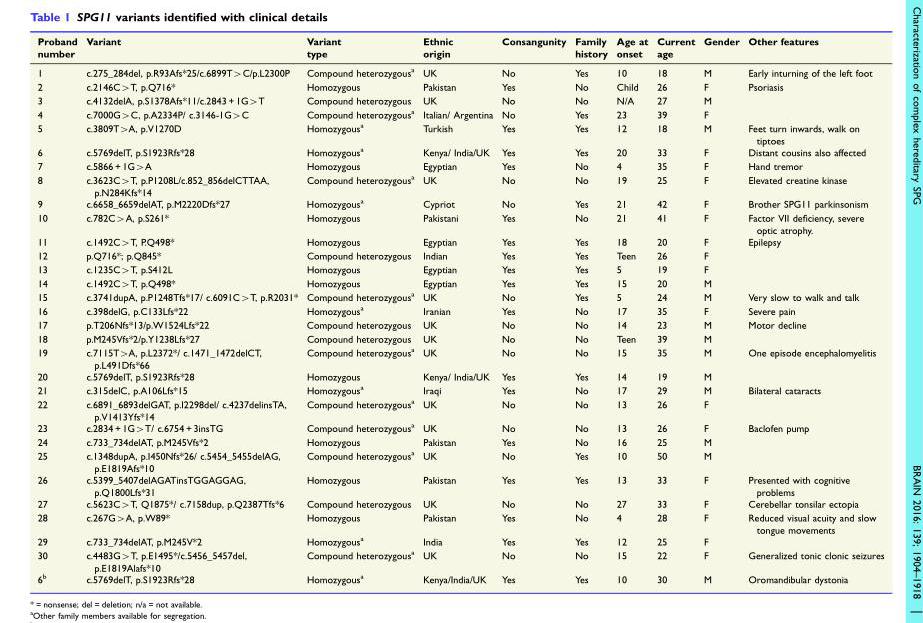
<table><thead><tr><td>Proband number</td><td>Variant</td><td>Variant type</td><td>Ethnic origin</td><td>Consangunity</td><td>Family history</td><td>Age at onset</td><td>Current age</td><td>Gender</td><td>Other features</td></tr></thead><tbody><tr><td>1</td><td>c.275_284del, p.R93Afs*25/c.6899T&gt;C/p.L2300P</td><td>Compound heterozygous<sup>a</sup></td><td>UK</td><td>No</td><td>Yes</td><td>10</td><td>18</td><td>M</td><td>Early inturning of the left foot</td></tr><tr><td>2</td><td>c.2146C&gt;T, p.Q716*</td><td>Homozygous</td><td>Pakistan</td><td>Yes</td><td>No</td><td>Child</td><td>26</td><td>F</td><td>Psoriasis</td></tr><tr><td>3</td><td>c.4132delA, p.S1378Afs*11/c.2843 + 1G&gt;T</td><td>Compound heterozygous</td><td>UK</td><td>No</td><td>No</td><td>N/A</td><td>27</td><td>M</td><td></td></tr><tr><td>4</td><td>c.7000G&gt;C, p.A2334P/ c.3146-1G&gt;C</td><td>Compound heterozygous<sup>a</sup></td><td>Italian/ Argentina</td><td>No</td><td>Yes</td><td>23</td><td>39</td><td>F</td><td></td></tr><tr><td>5</td><td>c.3809T&gt;A, p.V1270D</td><td>Homozygous<sup>a</sup></td><td>Turkish</td><td>Yes</td><td>Yes</td><td>12</td><td>18</td><td>M</td><td>Feet turn inwards, walk on tiptoes</td></tr><tr><td>6</td><td>c.5769delT, p.S1923Rfs*28</td><td>Homozygous<sup>a</sup></td><td>Kenya/ India/UK</td><td>Yes</td><td>Yes</td><td>20</td><td>33</td><td>F</td><td>Distant cousins also affected</td></tr><tr><td>7</td><td>c.5866 + 1G&gt;A</td><td>Homozygous</td><td>Egyptian</td><td>Yes</td><td>No</td><td>4</td><td>35</td><td>F</td><td>Hand tremor</td></tr><tr><td>8</td><td>c.3623C&gt;T, p.P1208L/c.852_856delCTTAA, p.N284Kfs*14</td><td>Compound heterozygous<sup>a</sup></td><td>UK</td><td>No</td><td>No</td><td>19</td><td>25</td><td>F</td><td>Elevated creatine kinase</td></tr><tr><td>9</td><td>c.6658_6659delAT, p.M2220Dfs*27</td><td>Homozygous<sup>a</sup></td><td>Cypriot</td><td>No</td><td>Yes</td><td>21</td><td>42</td><td>F</td><td>Brother SPG11 parkinsonism</td></tr><tr><td>10</td><td>c.782C&gt;A, p.S261*</td><td>Homozygous</td><td>Pakistani</td><td>Yes</td><td>No</td><td>21</td><td>41</td><td>F</td><td>Factor VII deficiency, severe optic atrophy.</td></tr><tr><td>11</td><td>c.1492C&gt;T, P.Q498*</td><td>Homozygous</td><td>Egyptian</td><td>Yes</td><td>Yes</td><td>18</td><td>20</td><td>F</td><td>Epilepsy</td></tr><tr><td>12</td><td>p.Q716*; p.Q845*</td><td>Compound heterozygous</td><td>Indian</td><td>Yes</td><td>Yes</td><td>Teen</td><td>26</td><td>F</td><td></td></tr><tr><td>13</td><td>c.1235C&gt;T, p.S412L</td><td>Homozygous</td><td>Egyptian</td><td>Yes</td><td>Yes</td><td>5</td><td>19</td><td>F</td><td></td></tr><tr><td>14</td><td>c.1492C&gt;T, p.Q498*</td><td>Homozygous</td><td>Egyptian</td><td>Yes</td><td>Yes</td><td>15</td><td>20</td><td>M</td><td></td></tr><tr><td>15</td><td>c.3741dupA, p.P1248Tfs*17/ c.6091C&gt;T, p.R2031*</td><td>Compound heterozygous<sup>a</sup></td><td>UK</td><td>No</td><td>Yes</td><td>5</td><td>24</td><td>M</td><td>Very slow to walk and talk</td></tr><tr><td>16</td><td>c.398delG, p.C133Lfs*22</td><td>Homozygous<sup>a</sup></td><td>Iranian</td><td>Yes</td><td>No</td><td>17</td><td>35</td><td>F</td><td>Severe pain</td></tr><tr><td>17</td><td>p.T206Nfs*13/p.W1524Lfs*22</td><td>Compound heterozygous</td><td>UK</td><td>No</td><td>No</td><td>14</td><td>23</td><td>M</td><td>Motor decline</td></tr><tr><td>18</td><td>p.M245Vfs*2/p.Y1238Lfs*27</td><td>Compound heterozygous</td><td>UK</td><td>No</td><td>No</td><td>Teen</td><td>39</td><td>M</td><td></td></tr><tr><td>19</td><td>c.7115T&gt;A, p.L2372*/ c.1471_1472delCT, p.L491Dfs*66</td><td>Compound heterozygous<sup>a</sup></td><td>UK</td><td>No</td><td>No</td><td>15</td><td>35</td><td>M</td><td>One episode encephalomyelitis</td></tr><tr><td>20</td><td>c.5769delT, p.S1923Rfs*28</td><td>Homozygous</td><td>Kenya/ India/UK</td><td>Yes</td><td>Yes</td><td>14</td><td>19</td><td>M</td><td></td></tr><tr><td>21</td><td>c.315delC, p.A106Lfs*15</td><td>Homozygous<sup>a</sup></td><td>Iraqi</td><td>Yes</td><td>No</td><td>17</td><td>29</td><td>M</td><td>Bilateral cataracts</td></tr><tr><td>22</td><td>c.6891_6893delGAT, p.I2298del/ c.4237delinsTA, p.V1413Yfs*14</td><td>Compound heterozygous<sup>a</sup></td><td>UK</td><td>No</td><td>No</td><td>13</td><td>26</td><td>F</td><td></td></tr><tr><td>23</td><td>c.2834 + 1G&gt;T/ c.6754 + 3insTG</td><td>Compound heterozygous<sup>a</sup></td><td>UK</td><td>No</td><td>No</td><td>13</td><td>26</td><td>F</td><td>Baclofen pump</td></tr><tr><td>24</td><td>c.733_734delAT, p.M245Vfs*2</td><td>Homozygous</td><td>Pakistan</td><td>Yes</td><td>No</td><td>16</td><td>25</td><td>M</td><td></td></tr><tr><td>25</td><td>c.1348dupA, p.I450Nfs*26/ c.5454_5455delAG, p.E1819Afs*10</td><td>Compound heterozygous<sup>a</sup></td><td>UK</td><td>No</td><td>Yes</td><td>10</td><td>50</td><td>M</td><td></td></tr><tr><td>26</td><td>c.5399_5407delAGATinsTGGAGGAG, p.Q1800Lfs*31</td><td>Homozygous</td><td>Pakistan</td><td>Yes</td><td>Yes</td><td>13</td><td>33</td><td>F</td><td>Presented with cognitive problems</td></tr><tr><td>27</td><td>c.5623C&gt;T, Q1875*/ c.7158dup, p.Q2387Tfs*6</td><td>Compound heterozygous</td><td>UK</td><td>No</td><td>No</td><td>27</td><td>33</td><td>F</td><td>Cerebellar tonsilar ectopia</td></tr><tr><td>28</td><td>c.267G&gt;A, p.W89*</td><td>Homozygous</td><td>Pakistan</td><td>Yes</td><td>No</td><td>4</td><td>28</td><td>F</td><td>Reduced visual acuity and slow tongue movements</td></tr><tr><td>29</td><td>c.733_734delAT, p.M245V*2</td><td>Homozygous<sup>a</sup></td><td>India</td><td>Yes</td><td>Yes</td><td>12</td><td>25</td><td>F</td><td></td></tr><tr><td>30</td><td>c.4483G&gt;T, p.E1495*/c.5456_5457del, p.E1819Alafs*10</td><td>Compound heterozygous<sup>a</sup></td><td>UK</td><td>No</td><td>No</td><td>15</td><td>22</td><td>F</td><td>Generalized tonic clonic seizures</td></tr><tr><td>6<sup>b</sup></td><td>c.5769delT, p.S1923Rfs*28</td><td>Homozygous<sup>a</sup></td><td>Kenya/India/UK</td><td>Yes</td><td>Yes</td><td>10</td><td>30</td><td>M</td><td>Oromandibular dystonia</td></tr></tbody></table>